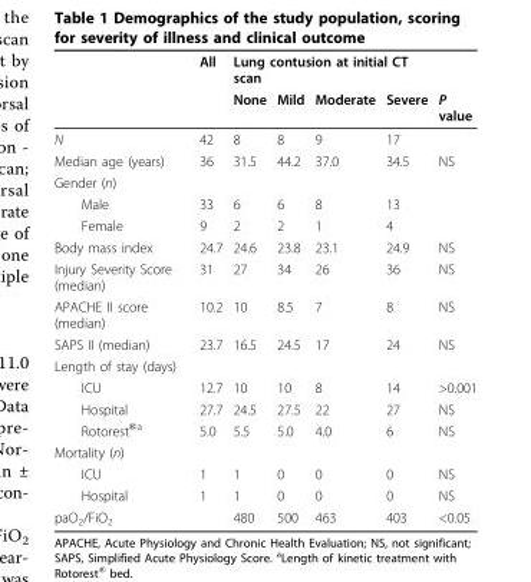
<table><thead><tr><td rowspan="2"></td><td rowspan="2">All</td><td colspan="4">Lung contusion at initial CT scan</td><td rowspan="2">P value</td></tr><tr><td>None</td><td>Mild</td><td>Moderate</td><td>Severe</td></tr></thead><tbody><tr><td>N</td><td>42</td><td>8</td><td>8</td><td>9</td><td>17</td><td></td></tr><tr><td>Median age (years)</td><td>36</td><td>31.5</td><td>44.2</td><td>37.0</td><td>34.5</td><td>NS</td></tr><tr><td colspan="7">Gender (n)</td></tr><tr><td>Male</td><td>33</td><td>6</td><td>6</td><td>8</td><td>13</td><td></td></tr><tr><td>Female</td><td>9</td><td>2</td><td>2</td><td>1</td><td>4</td><td></td></tr><tr><td>Body mass index</td><td>24.7</td><td>24.6</td><td>23.8</td><td>23.1</td><td>24.9</td><td>NS</td></tr><tr><td>Injury Severity Score (median)</td><td>31</td><td>27</td><td>34</td><td>26</td><td>36</td><td>NS</td></tr><tr><td>APACHE II score (median)</td><td>10.2</td><td>10</td><td>8.5</td><td>7</td><td>8</td><td>NS</td></tr><tr><td>SAPS II (median)</td><td>23.7</td><td>16.5</td><td>24.5</td><td>17</td><td>24</td><td>NS</td></tr><tr><td colspan="7">Length of stay (days)</td></tr><tr><td>ICU</td><td>12.7</td><td>10</td><td>10</td><td>8</td><td>14</td><td>&gt;0.001</td></tr><tr><td>Hospital</td><td>27.7</td><td>24.5</td><td>27.5</td><td>22</td><td>27</td><td>NS</td></tr><tr><td>Rotorest<sup>®a</sup></td><td>5.0</td><td>5.5</td><td>5.0</td><td>4.0</td><td>6</td><td>NS</td></tr><tr><td colspan="7">Mortality (n)</td></tr><tr><td>ICU</td><td>1</td><td>1</td><td>0</td><td>0</td><td>0</td><td>NS</td></tr><tr><td>Hospital</td><td>1</td><td>1</td><td>0</td><td>0</td><td>0</td><td>NS</td></tr><tr><td>paO<sub>2</sub>/FiO<sub>2</sub></td><td></td><td>480</td><td>500</td><td>463</td><td>403</td><td>&lt;0.05</td></tr></tbody></table>